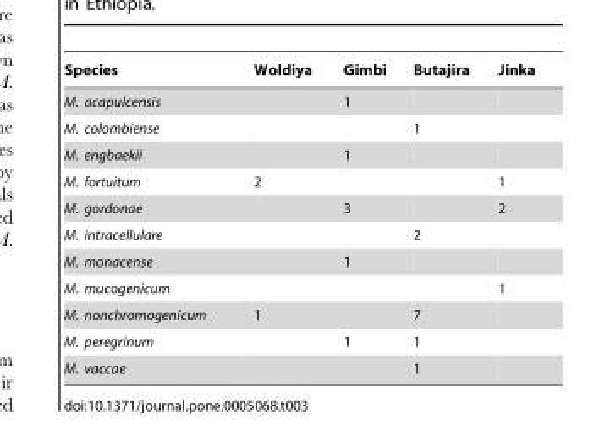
<table><thead><tr><td>Species</td><td>Woldiya</td><td>Gimbi</td><td>Butajira</td><td>Jinka</td></tr></thead><tbody><tr><td>M. acapulcensis</td><td></td><td>1</td><td></td><td></td></tr><tr><td>M. colombiense</td><td></td><td></td><td>1</td><td></td></tr><tr><td>M. engbaekii</td><td></td><td>1</td><td></td><td></td></tr><tr><td>M. fortuitum</td><td>2</td><td></td><td></td><td>1</td></tr><tr><td>M. gordonae</td><td></td><td>3</td><td></td><td>2</td></tr><tr><td>M. intracellulare</td><td></td><td></td><td>2</td><td></td></tr><tr><td>M. monacense</td><td></td><td>1</td><td></td><td></td></tr><tr><td>M. mucogenicum</td><td></td><td></td><td></td><td>1</td></tr><tr><td>M. nonchromogenicum</td><td>1</td><td></td><td>7</td><td></td></tr><tr><td>M. peregrinum</td><td></td><td>1</td><td>1</td><td></td></tr><tr><td>M. vaccae</td><td></td><td></td><td>1</td><td></td></tr></tbody></table>